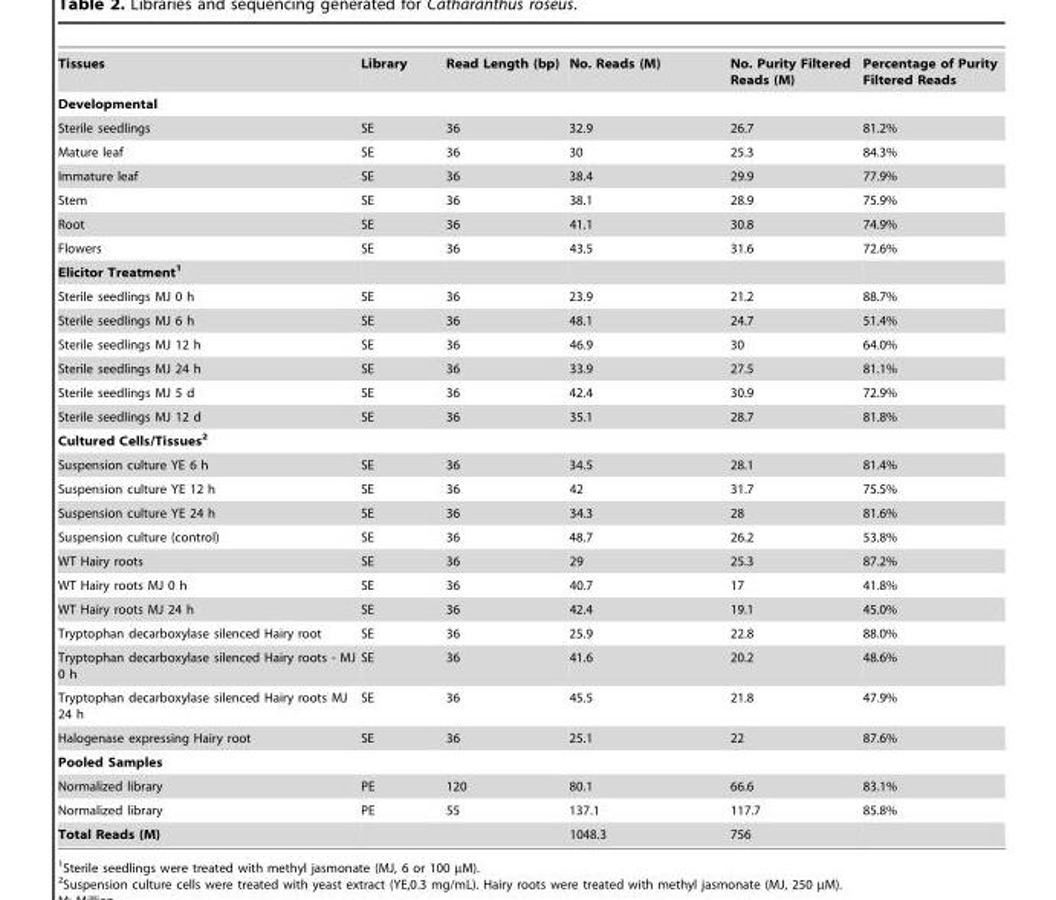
<table><tbody><tr><td>Tissues</td><td>Library</td><td>Read Length (bp)</td><td>No. Reads (M)</td><td>No. Purity Filtered Reads (M)</td><td>Percentage of Purity Filtered Reads</td></tr><tr><td colspan="6">Developmental</td></tr><tr><td>Sterile seedlings</td><td>SE</td><td>36</td><td>32.9</td><td>26.7</td><td>81.2%</td></tr><tr><td>Mature leaf</td><td>SE</td><td>36</td><td>30</td><td>25.3</td><td>84.3%</td></tr><tr><td>Immature leaf</td><td>SE</td><td>36</td><td>38.4</td><td>29.9</td><td>77.9%</td></tr><tr><td>Stem</td><td>SE</td><td>36</td><td>38.1</td><td>28.9</td><td>75.9%</td></tr><tr><td>Root</td><td>SE</td><td>36</td><td>41.1</td><td>30.8</td><td>74.9%</td></tr><tr><td>Flowers</td><td>SE</td><td>36</td><td>43.5</td><td>31.6</td><td>72.6%</td></tr><tr><td colspan="6">Elicitor Treatment1</td></tr><tr><td>Sterile seedlings MJ 0 h</td><td>SE</td><td>36</td><td>23.9</td><td>21.2</td><td>88.7%</td></tr><tr><td>Sterile seedlings MJ 6 h</td><td>SE</td><td>36</td><td>48.1</td><td>24.7</td><td>51.4%</td></tr><tr><td>Sterile seedlings MJ 12 h</td><td>SE</td><td>36</td><td>46.9</td><td>30</td><td>64.0%</td></tr><tr><td>Sterile seedlings MJ 24 h</td><td>SE</td><td>36</td><td>33.9</td><td>27.5</td><td>81.1%</td></tr><tr><td>Sterile seedlings MJ 5 d</td><td>SE</td><td>36</td><td>42.4</td><td>30.9</td><td>72.9%</td></tr><tr><td>Sterile seedlings MJ 12 d</td><td>SE</td><td>36</td><td>35.1</td><td>28.7</td><td>81.8%</td></tr><tr><td colspan="6">Cultured Cells/Tissues2</td></tr><tr><td>Suspension culture YE 6 h</td><td>SE</td><td>36</td><td>34.5</td><td>28.1</td><td>81.4%</td></tr><tr><td>Suspension culture YE 12 h</td><td>SE</td><td>36</td><td>42</td><td>31.7</td><td>75.5%</td></tr><tr><td>Suspension culture YE 24 h</td><td>SE</td><td>36</td><td>34.3</td><td>28</td><td>81.6%</td></tr><tr><td>Suspension culture (control)</td><td>SE</td><td>36</td><td>48.7</td><td>26.2</td><td>53.8%</td></tr><tr><td>WT Hairy roots</td><td>SE</td><td>36</td><td>29</td><td>25.3</td><td>87.2%</td></tr><tr><td>WT Hairy roots MJ 0 h</td><td>SE</td><td>36</td><td>40.7</td><td>17</td><td>41.8%</td></tr><tr><td>WT Hairy roots MJ 24 h</td><td>SE</td><td>36</td><td>42.4</td><td>19.1</td><td>45.0%</td></tr><tr><td>Tryptophan decarboxylase silenced Hairy root</td><td>SE</td><td>36</td><td>25.9</td><td>22.8</td><td>88.0%</td></tr><tr><td>Tryptophan decarboxylase silenced Hairy roots - MJ 0 h</td><td>SE</td><td>36</td><td>41.6</td><td>20.2</td><td>48.6%</td></tr><tr><td>Tryptophan decarboxylase silenced Hairy roots MJ 24 h</td><td>SE</td><td>36</td><td>45.5</td><td>21.8</td><td>47.9%</td></tr><tr><td>Halogenase expressing Hairy root</td><td>SE</td><td>36</td><td>25.1</td><td>22</td><td>87.6%</td></tr><tr><td colspan="6">Pooled Samples</td></tr><tr><td>Normalized library</td><td>PE</td><td>120</td><td>80.1</td><td>66.6</td><td>83.1%</td></tr><tr><td>Normalized library</td><td>PE</td><td>55</td><td>137.1</td><td>117.7</td><td>85.8%</td></tr><tr><td>Total Reads (M)</td><td></td><td></td><td>1048.3</td><td>756</td><td></td></tr></tbody></table>